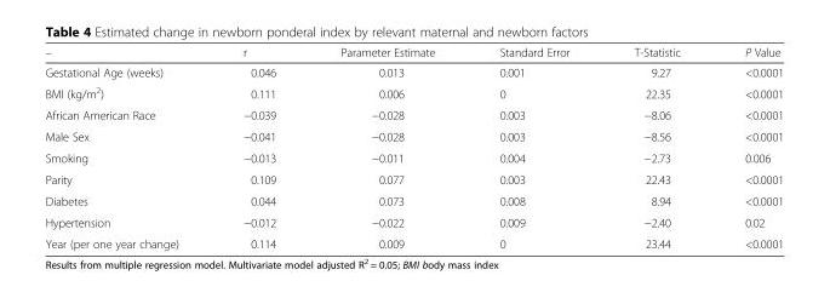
<table><thead><tr><td>–</td><td>r</td><td>Parameter Estimate</td><td>Standard Error</td><td>T-Statistic</td><td>P Value</td></tr></thead><tbody><tr><td>Gestational Age (weeks)</td><td>0.046</td><td>0.013</td><td>0.001</td><td>9.27</td><td>&lt;0.0001</td></tr><tr><td>BMI (kg/m<sup>2</sup>)</td><td>0.111</td><td>0.006</td><td>0</td><td>22.35</td><td>&lt;0.0001</td></tr><tr><td>African American Race</td><td>−0.039</td><td>−0.028</td><td>0.003</td><td>−8.06</td><td>&lt;0.0001</td></tr><tr><td>Male Sex</td><td>−0.041</td><td>−0.028</td><td>0.003</td><td>−8.56</td><td>&lt;0.0001</td></tr><tr><td>Smoking</td><td>−0.013</td><td>−0.011</td><td>0.004</td><td>−2.73</td><td>0.006</td></tr><tr><td>Parity</td><td>0.109</td><td>0.077</td><td>0.003</td><td>22.43</td><td>&lt;0.0001</td></tr><tr><td>Diabetes</td><td>0.044</td><td>0.073</td><td>0.008</td><td>8.94</td><td>&lt;0.0001</td></tr><tr><td>Hypertension</td><td>−0.012</td><td>−0.022</td><td>0.009</td><td>−2.40</td><td>0.02</td></tr><tr><td>Year (per one year change)</td><td>0.114</td><td>0.009</td><td>0</td><td>23.44</td><td>&lt;0.0001</td></tr></tbody></table>